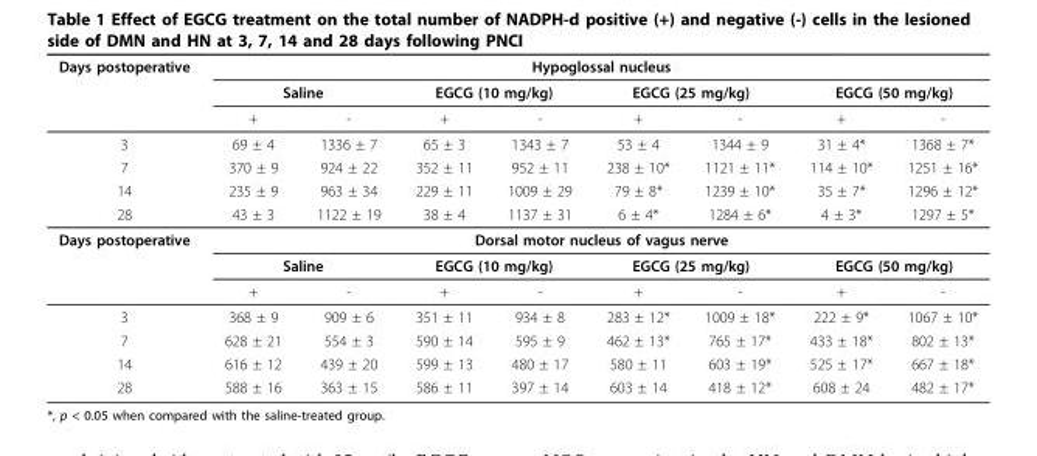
<table><thead><tr><td rowspan="3">Days postoperative</td><td colspan="8">Hypoglossal nucleus</td></tr><tr><td colspan="2">Saline</td><td colspan="2">EGCG (10 mg/kg)</td><td colspan="2">EGCG (25 mg/kg)</td><td colspan="2">EGCG (50 mg/kg)</td></tr><tr><td>+</td><td>-</td><td>+</td><td>-</td><td>+</td><td>-</td><td>+</td><td>-</td></tr></thead><tbody><tr><td>3</td><td>69 ± 4</td><td>1336 ± 7</td><td>65 ± 3</td><td>1343 ± 7</td><td>53 ± 4</td><td>1344 ± 9</td><td>31 ± 4*</td><td>1368 ± 7*</td></tr><tr><td>7</td><td>370 ± 9</td><td>924 ± 22</td><td>352 ± 11</td><td>952 ± 11</td><td>238 ± 10*</td><td>1121 ± 11*</td><td>114 ± 10*</td><td>1251 ± 16*</td></tr><tr><td>14</td><td>235 ± 9</td><td>963 ± 34</td><td>229 ± 11</td><td>1009 ± 29</td><td>79 ± 8*</td><td>1239 ± 10*</td><td>35 ± 7*</td><td>1296 ± 12*</td></tr><tr><td>28</td><td>43 ± 3</td><td>1122 ± 19</td><td>38 ± 4</td><td>1137 ± 31</td><td>6 ± 4*</td><td>1284 ± 6*</td><td>4 ± 3*</td><td>1297 ± 5*</td></tr><tr><td rowspan="3">Days postoperative</td><td colspan="8">Dorsal motor nucleus of vagus nerve</td></tr><tr><td colspan="2">Saline</td><td colspan="2">EGCG (10 mg/kg)</td><td colspan="2">EGCG (25 mg/kg)</td><td colspan="2">EGCG (50 mg/kg)</td></tr><tr><td>+</td><td>-</td><td>+</td><td>-</td><td>+</td><td>-</td><td>+</td><td>-</td></tr><tr><td>3</td><td>368 ± 9</td><td>909 ± 6</td><td>351 ± 11</td><td>934 ± 8</td><td>283 ± 12*</td><td>1009 ± 18*</td><td>222 ± 9*</td><td>1067 ± 10*</td></tr><tr><td>7</td><td>628 ± 21</td><td>554 ± 3</td><td>590 ± 14</td><td>595 ± 9</td><td>462 ± 13*</td><td>765 ± 17*</td><td>433 ± 18*</td><td>802 ± 13*</td></tr><tr><td>14</td><td>616 ± 12</td><td>439 ± 20</td><td>599 ± 13</td><td>480 ± 17</td><td>580 ± 11</td><td>603 ± 19*</td><td>525 ± 17*</td><td>667 ± 18*</td></tr><tr><td>28</td><td>588 ± 16</td><td>363 ± 15</td><td>586 ± 11</td><td>397 ± 14</td><td>603 ± 14</td><td>418 ± 12*</td><td>608 ± 24</td><td>482 ± 17*</td></tr></tbody></table>